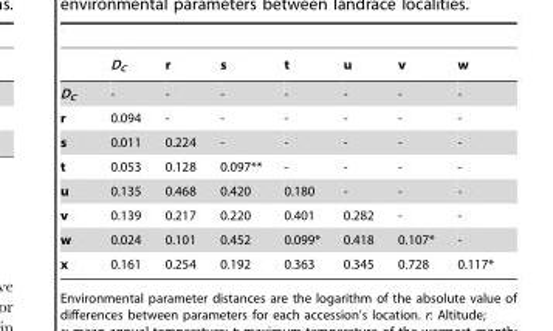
<table><thead><tr><td></td><td>D<sub>C</sub></td><td>r</td><td>s</td><td>t</td><td>u</td><td>v</td><td>w</td></tr></thead><tbody><tr><td>D<sub>C</sub></td><td>-</td><td>-</td><td>-</td><td>-</td><td>-</td><td>-</td><td>-</td></tr><tr><td>r</td><td>0.094</td><td>-</td><td>-</td><td>-</td><td>-</td><td>-</td><td>-</td></tr><tr><td>s</td><td>0.011</td><td>0.224</td><td>-</td><td>-</td><td>-</td><td>-</td><td>-</td></tr><tr><td>t</td><td>0.053</td><td>0.128</td><td>0.097**</td><td>-</td><td>-</td><td>-</td><td>-</td></tr><tr><td>u</td><td>0.135</td><td>0.468</td><td>0.420</td><td>0.180</td><td>-</td><td>-</td><td>-</td></tr><tr><td>v</td><td>0.139</td><td>0.217</td><td>0.220</td><td>0.401</td><td>0.282</td><td>-</td><td>-</td></tr><tr><td>w</td><td>0.024</td><td>0.101</td><td>0.452</td><td>0.099*</td><td>0.418</td><td>0.107*</td><td>-</td></tr><tr><td>x</td><td>0.161</td><td>0.254</td><td>0.192</td><td>0.363</td><td>0.345</td><td>0.728</td><td>0.117*</td></tr></tbody></table>